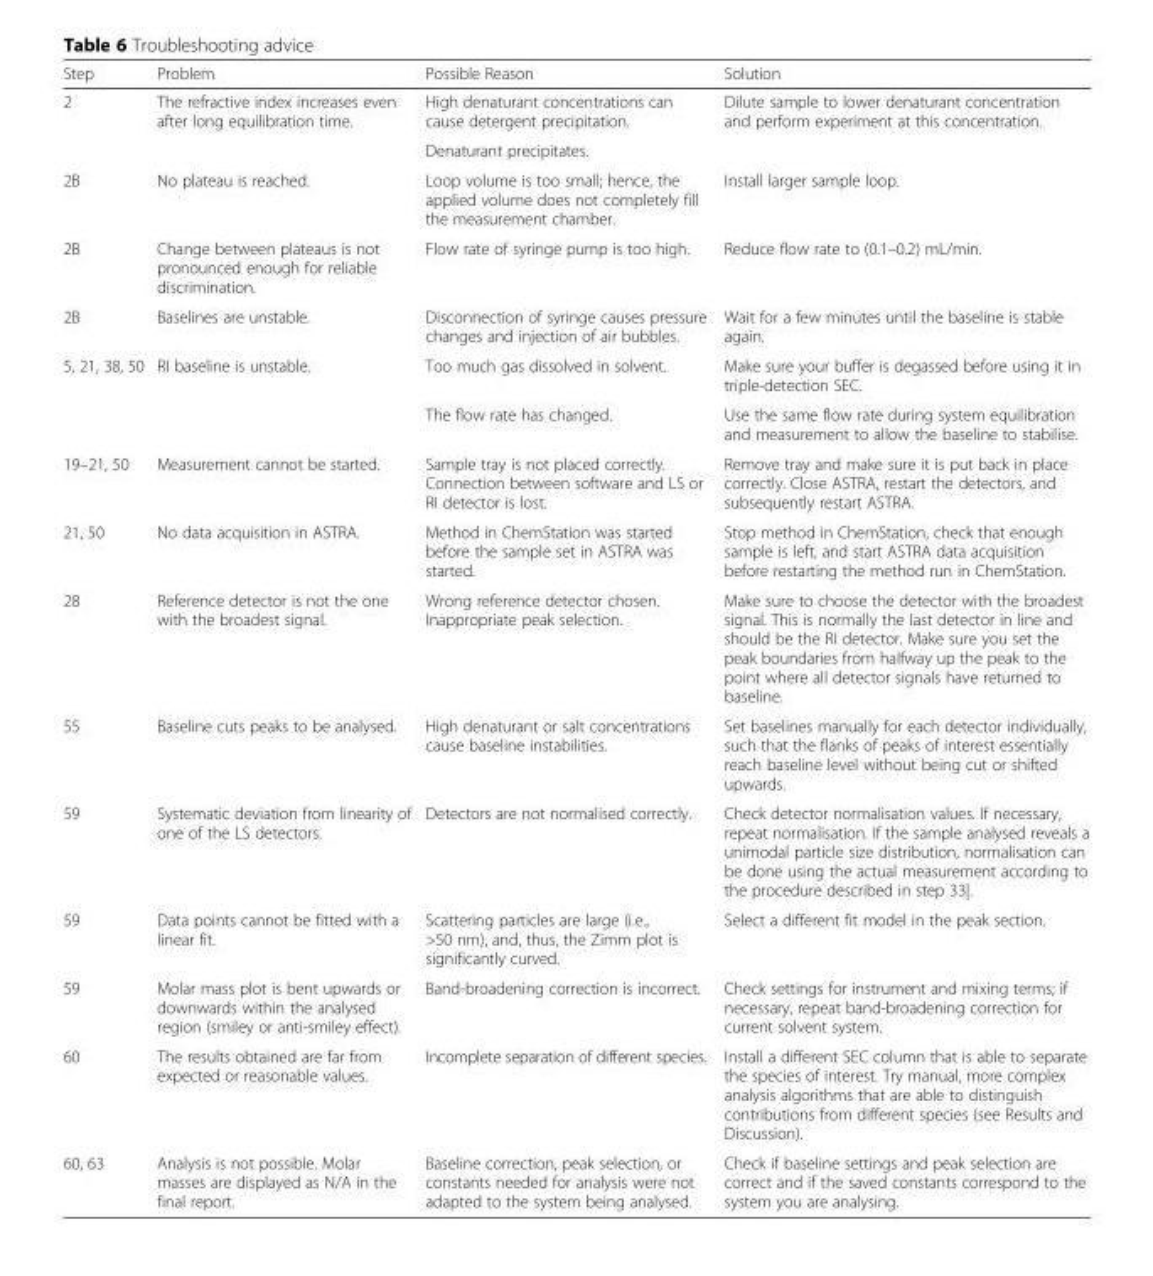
<table><thead><tr><td>Step</td><td>Problem</td><td>Possible Reason</td><td>Solution</td></tr></thead><tbody><tr><td rowspan="2">2</td><td rowspan="2">The refractive index increases even after long equilibration time.</td><td>High denaturant concentrations can cause detergent precipitation.</td><td rowspan="2">Dilute sample to lower denaturant concentration and perform experiment at this concentration.</td></tr><tr><td>Denaturant precipitates.</td></tr><tr><td>2B</td><td>No plateau is reached.</td><td>Loop volume is too small; hence, the applied volume does not completely fill the measurement chamber.</td><td>Install larger sample loop.</td></tr><tr><td>2B</td><td>Change between plateaus is not pronounced enough for reliable discrimination.</td><td>Flow rate of syringe pump is too high.</td><td>Reduce flow rate to (0.1–0.2) mL/min.</td></tr><tr><td>2B</td><td>Baselines are unstable.</td><td>Disconnection of syringe causes pressure changes and injection of air bubbles.</td><td>Wait for a few minutes until the baseline is stable again.</td></tr><tr><td rowspan="2">5, 21, 38, 50</td><td rowspan="2">RI baseline is unstable.</td><td>Too much gas dissolved in solvent.</td><td>Make sure your buffer is degassed before using it in triple-detection SEC.</td></tr><tr><td>The flow rate has changed.</td><td>Use the same flow rate during system equilibration and measurement to allow the baseline to stabilise.</td></tr><tr><td>19–21, 50</td><td>Measurement cannot be started.</td><td>Sample tray is not placed correctly. Connection between software and LS or RI detector is lost.</td><td>Remove tray and make sure it is put back in place correctly. Close ASTRA, restart the detectors, and subsequently restart ASTRA.</td></tr><tr><td>21, 50</td><td>No data acquisition in ASTRA.</td><td>Method in ChemStation was started before the sample set in ASTRA was started.</td><td>Stop method in ChemStation, check that enough sample is left, and start ASTRA data acquisition before restarting the method run in ChemStation.</td></tr><tr><td>28</td><td>Reference detector is not the one with the broadest signal.</td><td>Wrong reference detector chosen. Inappropriate peak selection.</td><td>Make sure to choose the detector with the broadest signal. This is normally the last detector in line and should be the RI detector. Make sure you set the peak boundaries from halfway up the peak to the point where all detector signals have returned to baseline.</td></tr><tr><td>55</td><td>Baseline cuts peaks to be analysed.</td><td>High denaturant or salt concentrations cause baseline instabilities.</td><td>Set baselines manually for each detector individually, such that the flanks of peaks of interest essentially reach baseline level without being cut or shifted upwards.</td></tr><tr><td>59</td><td>Systematic deviation from linearity of one of the LS detectors.</td><td>Detectors are not normalised correctly.</td><td>Check detector normalisation values. If necessary, repeat normalisation. If the sample analysed reveals a unimodal particle size distribution, normalisation can be done using the actual measurement according to the procedure described in step 33|.</td></tr><tr><td>59</td><td>Data points cannot be fitted with a linear fit.</td><td>Scattering particles are large (i.e., &gt;50 nm), and, thus, the Zimm plot is significantly curved.</td><td>Select a different fit model in the peak section.</td></tr><tr><td>59</td><td>Molar mass plot is bent upwards or downwards within the analysed region (smiley or anti-smiley effect).</td><td>Band-broadening correction is incorrect.</td><td>Check settings for instrument and mixing terms; if necessary, repeat band-broadening correction for current solvent system.</td></tr><tr><td>60</td><td>The results obtained are far from expected or reasonable values.</td><td>Incomplete separation of different species.</td><td>Install a different SEC column that is able to separate the species of interest. Try manual, more complex analysis algorithms that are able to distinguish contributions from different species (see Results and Discussion).</td></tr><tr><td>60, 63</td><td>Analysis is not possible. Molar masses are displayed as N/A in the final report.</td><td>Baseline correction, peak selection, or constants needed for analysis were not adapted to the system being analysed.</td><td>Check if baseline settings and peak selection are correct and if the saved constants correspond to the system you are analysing.</td></tr></tbody></table>